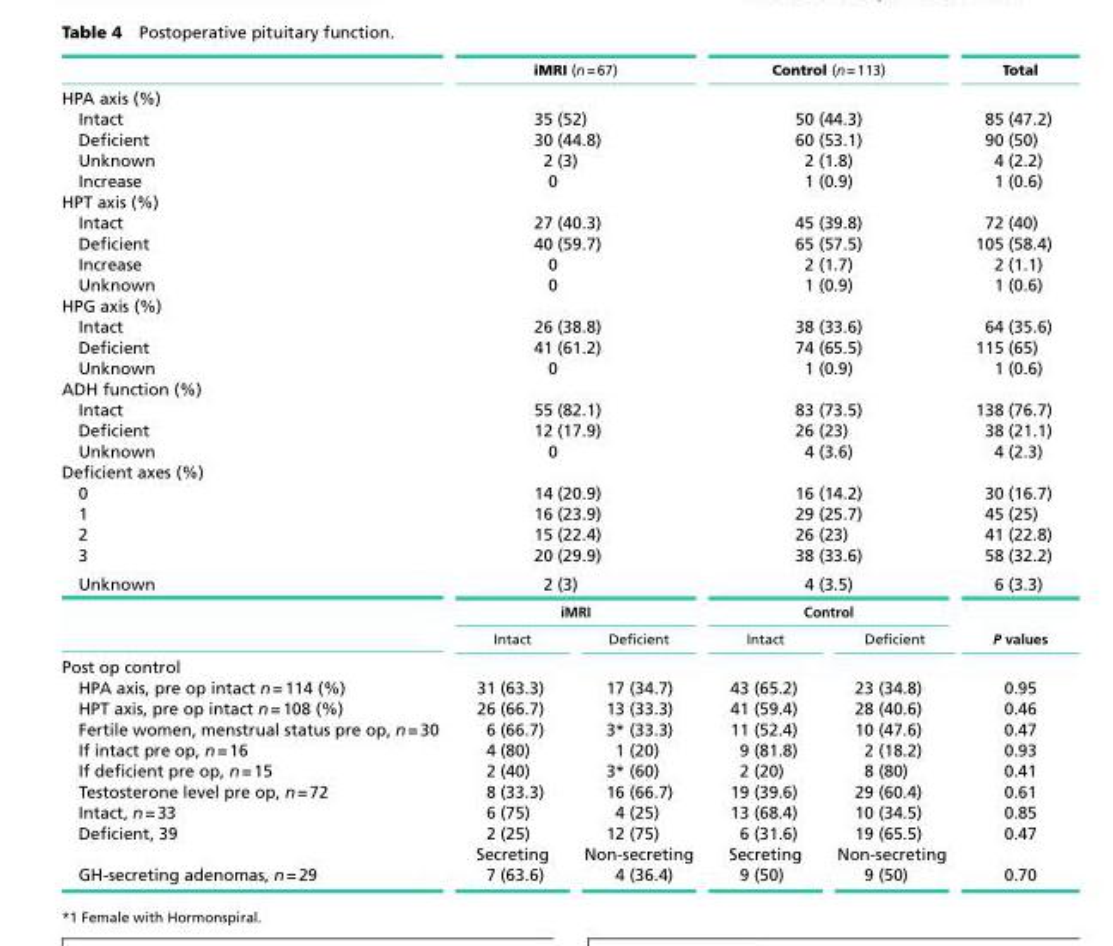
<table><thead><tr><td></td><td colspan="2">iMRI (n = 67)</td><td colspan="2">Control (n = 113)</td><td>Total</td></tr></thead><tbody><tr><td colspan="6">HPA axis (%)</td></tr><tr><td>Intact</td><td colspan="2">35 (52)</td><td colspan="2">50 (44.3)</td><td>85 (47.2)</td></tr><tr><td>Deficient</td><td colspan="2">30 (44.8)</td><td colspan="2">60 (53.1)</td><td>90 (50)</td></tr><tr><td>Unknown</td><td colspan="2">2 (3)</td><td colspan="2">2 (1.8)</td><td>4 (2.2)</td></tr><tr><td>Increase</td><td colspan="2">0</td><td colspan="2">1 (0.9)</td><td>1 (0.6)</td></tr><tr><td colspan="6">HPT axis (%)</td></tr><tr><td>Intact</td><td colspan="2">27 (40.3)</td><td colspan="2">45 (39.8)</td><td>72 (40)</td></tr><tr><td>Deficient</td><td colspan="2">40 (59.7)</td><td colspan="2">65 (57.5)</td><td>105 (58.4)</td></tr><tr><td>Increase</td><td colspan="2">0</td><td colspan="2">2 (1.7)</td><td>2 (1.1)</td></tr><tr><td>Unknown</td><td colspan="2">0</td><td colspan="2">1 (0.9)</td><td>1 (0.6)</td></tr><tr><td colspan="6">HPG axis (%)</td></tr><tr><td>Intact</td><td colspan="2">26 (38.8)</td><td colspan="2">38 (33.6)</td><td>64 (35.6)</td></tr><tr><td>Deficient</td><td colspan="2">41 (61.2)</td><td colspan="2">74 (65.5)</td><td>115 (65)</td></tr><tr><td>Unknown</td><td colspan="2">0</td><td colspan="2">1 (0.9)</td><td>1 (0.6)</td></tr><tr><td colspan="6">ADH function (%)</td></tr><tr><td>Intact</td><td colspan="2">55 (82.1)</td><td colspan="2">83 (73.5)</td><td>138 (76.7)</td></tr><tr><td>Deficient</td><td colspan="2">12 (17.9)</td><td colspan="2">26 (23)</td><td>38 (21.1)</td></tr><tr><td>Unknown</td><td colspan="2">0</td><td colspan="2">4 (3.6)</td><td>4 (2.3)</td></tr><tr><td colspan="6">Deficient axes (%)</td></tr><tr><td>0</td><td colspan="2">14 (20.9)</td><td colspan="2">16 (14.2)</td><td>30 (16.7)</td></tr><tr><td>1</td><td colspan="2">16 (23.9)</td><td colspan="2">29 (25.7)</td><td>45 (25)</td></tr><tr><td>2</td><td colspan="2">15 (22.4)</td><td colspan="2">26 (23)</td><td>41 (22.8)</td></tr><tr><td>3</td><td colspan="2">20 (29.9)</td><td colspan="2">38 (33.6)</td><td>58 (32.2)</td></tr><tr><td rowspan="3">Unknown</td><td colspan="2">2 (3)</td><td colspan="2">4 (3.5)</td><td>6 (3.3)</td></tr><tr><td colspan="2">iMRI</td><td colspan="2">Control</td><td rowspan="2">P values</td></tr><tr><td>Intact</td><td>Deficient</td><td>Intact</td><td>Deficient</td></tr><tr><td colspan="6">Post op control</td></tr><tr><td>HPA axis, pre op intact n = 114 (%)</td><td>31 (63.3)</td><td>17 (34.7)</td><td>43 (65.2)</td><td>23 (34.8)</td><td>0.95</td></tr><tr><td>HPT axis, pre op intact n = 108 (%)</td><td>26 (66.7)</td><td>13 (33.3)</td><td>41 (59.4)</td><td>28 (40.6)</td><td>0.46</td></tr><tr><td>Fertile women, menstrual status pre op, n = 30</td><td>6 (66.7)</td><td>3* (33.3)</td><td>11 (52.4)</td><td>10 (47.6)</td><td>0.47</td></tr><tr><td>If intact pre op, n = 16</td><td>4 (80)</td><td>1 (20)</td><td>9 (81.8)</td><td>2 (18.2)</td><td>0.93</td></tr><tr><td>If deficient pre op, n = 15</td><td>2 (40)</td><td>3* (60)</td><td>2 (20)</td><td>8 (80)</td><td>0.41</td></tr><tr><td>Testosterone level pre op, n = 72</td><td>8 (33.3)</td><td>16 (66.7)</td><td>19 (39.6)</td><td>29 (60.4)</td><td>0.61</td></tr><tr><td>Intact, n = 33</td><td>6 (75)</td><td>4 (25)</td><td>13 (68.4)</td><td>10 (34.5)</td><td>0.85</td></tr><tr><td rowspan="2">Deficient, 39</td><td>2 (25)</td><td>12 (75)</td><td>6 (31.6)</td><td>19 (65.5)</td><td>0.47</td></tr><tr><td>Secreting</td><td>Non-secreting</td><td>Secreting</td><td>Non-secreting</td><td></td></tr><tr><td>GH-secreting adenomas, n = 29</td><td>7 (63.6)</td><td>4 (36.4)</td><td>9 (50)</td><td>9 (50)</td><td>0.70</td></tr></tbody></table>